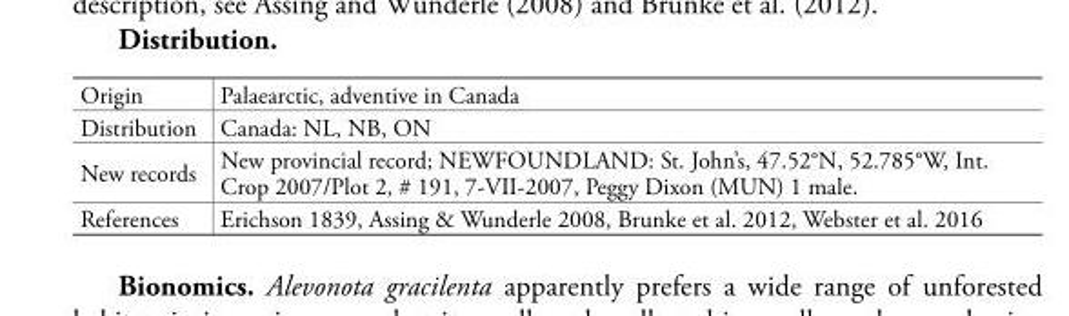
<table><tbody><tr><td>Origin</td><td>Palaearctic, adventive in Canada</td></tr><tr><td>Distribution</td><td>Canada: NL, NB, ON</td></tr><tr><td>New records</td><td>New provincial record; NEWFOUNDLAND: St. John’s, 47.52°N, 52.785°W, Int. Crop 2007/Plot 2, # 191, 7-VII-2007, Peggy Dixon (MUN) 1 male.</td></tr><tr><td>References</td><td>Erichson 1839, Assing &amp; Wunderle 2008, Brunke et al. 2012, Webster et al. 2016</td></tr></tbody></table>